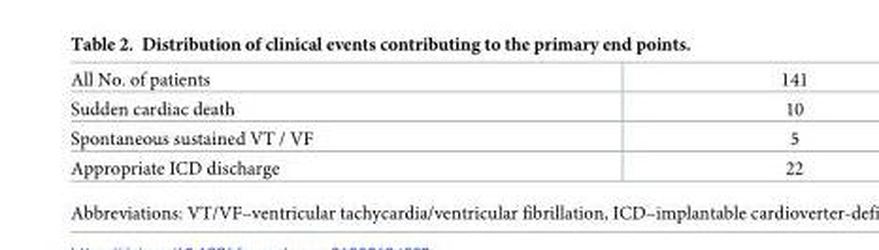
<table><tbody><tr><td>All No. of patients</td><td>141</td></tr><tr><td>Sudden cardiac death</td><td>10</td></tr><tr><td>Spontaneous sustained VT / VF</td><td>5</td></tr><tr><td>Appropriate ICD discharge</td><td>22</td></tr></tbody></table>